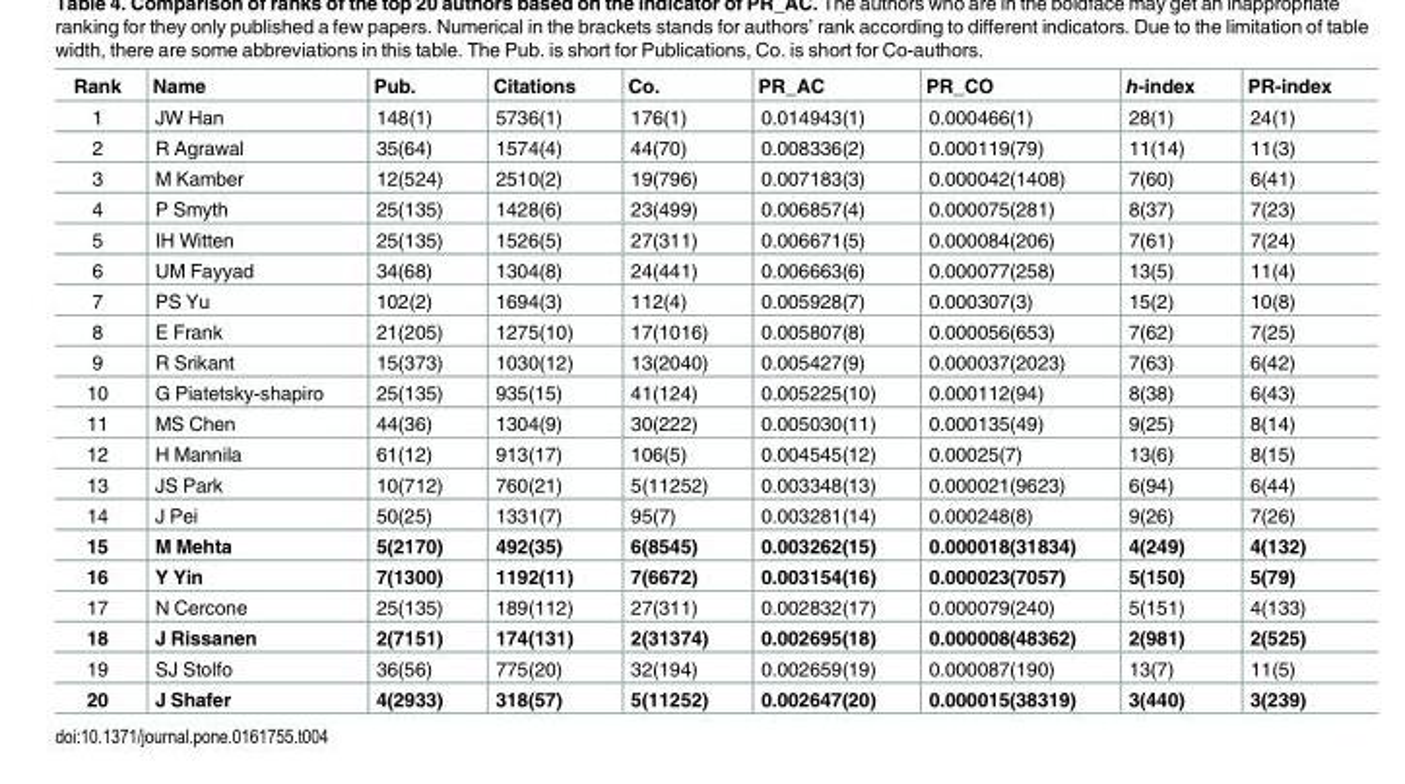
<table><thead><tr><td>Rank</td><td>Name</td><td>Pub.</td><td>Citations</td><td>Co.</td><td>PR_AC</td><td>PR_CO</td><td>h-index</td><td>PR-index</td></tr></thead><tbody><tr><td>1</td><td>JW Han</td><td>148(1)</td><td>5736(1)</td><td>176(1)</td><td>0.014943(1)</td><td>0.000466(1)</td><td>28(1)</td><td>24(1)</td></tr><tr><td>2</td><td>R Agrawal</td><td>35(64)</td><td>1574(4)</td><td>44(70)</td><td>0.008336(2)</td><td>0.000119(79)</td><td>11(14)</td><td>11(3)</td></tr><tr><td>3</td><td>M Kamber</td><td>12(524)</td><td>2510(2)</td><td>19(796)</td><td>0.007183(3)</td><td>0.000042(1408)</td><td>7(60)</td><td>6(41)</td></tr><tr><td>4</td><td>P Smyth</td><td>25(135)</td><td>1428(6)</td><td>23(499)</td><td>0.006857(4)</td><td>0.000075(281)</td><td>8(37)</td><td>7(23)</td></tr><tr><td>5</td><td>IH Witten</td><td>25(135)</td><td>1526(5)</td><td>27(311)</td><td>0.006671(5)</td><td>0.000084(206)</td><td>7(61)</td><td>7(24)</td></tr><tr><td>6</td><td>UM Fayyad</td><td>34(68)</td><td>1304(8)</td><td>24(441)</td><td>0.006663(6)</td><td>0.000077(258)</td><td>13(5)</td><td>11(4)</td></tr><tr><td>7</td><td>PS Yu</td><td>102(2)</td><td>1694(3)</td><td>112(4)</td><td>0.005928(7)</td><td>0.000307(3)</td><td>15(2)</td><td>10(8)</td></tr><tr><td>8</td><td>E Frank</td><td>21(205)</td><td>1275(10)</td><td>17(1016)</td><td>0.005807(8)</td><td>0.000056(653)</td><td>7(62)</td><td>7(25)</td></tr><tr><td>9</td><td>R Srikant</td><td>15(373)</td><td>1030(12)</td><td>13(2040)</td><td>0.005427(9)</td><td>0.000037(2023)</td><td>7(63)</td><td>6(42)</td></tr><tr><td>10</td><td>G Piatetsky-shapiro</td><td>25(135)</td><td>935(15)</td><td>41(124)</td><td>0.005225(10)</td><td>0.000112(94)</td><td>8(38)</td><td>6(43)</td></tr><tr><td>11</td><td>MS Chen</td><td>44(36)</td><td>1304(9)</td><td>30(222)</td><td>0.005030(11)</td><td>0.000135(49)</td><td>9(25)</td><td>8(14)</td></tr><tr><td>12</td><td>H Mannila</td><td>61(12)</td><td>913(17)</td><td>106(5)</td><td>0.004545(12)</td><td>0.00025(7)</td><td>13(6)</td><td>8(15)</td></tr><tr><td>13</td><td>JS Park</td><td>10(712)</td><td>760(21)</td><td>5(11252)</td><td>0.003348(13)</td><td>0.000021(9623)</td><td>6(94)</td><td>6(44)</td></tr><tr><td>14</td><td>J Pei</td><td>50(25)</td><td>1331(7)</td><td>95(7)</td><td>0.003281(14)</td><td>0.000248(8)</td><td>9(26)</td><td>7(26)</td></tr><tr><td>15</td><td>M Mehta</td><td>5(2170)</td><td>492(35)</td><td>6(8545)</td><td>0.003262(15)</td><td>0.000018(31834)</td><td>4(249)</td><td>4(132)</td></tr><tr><td>16</td><td>Y Yin</td><td>7(1300)</td><td>1192(11)</td><td>7(6672)</td><td>0.003154(16)</td><td>0.000023(7057)</td><td>5(150)</td><td>5(79)</td></tr><tr><td>17</td><td>N Cercone</td><td>25(135)</td><td>189(112)</td><td>27(311)</td><td>0.002832(17)</td><td>0.000079(240)</td><td>5(151)</td><td>4(133)</td></tr><tr><td>18</td><td>J Rissanen</td><td>2(7151)</td><td>174(131)</td><td>2(31374)</td><td>0.002695(18)</td><td>0.000008(48362)</td><td>2(981)</td><td>2(525)</td></tr><tr><td>19</td><td>SJ Stolfo</td><td>36(56)</td><td>775(20)</td><td>32(194)</td><td>0.002659(19)</td><td>0.000087(190)</td><td>13(7)</td><td>11(5)</td></tr><tr><td>20</td><td>J Shafer</td><td>4(2933)</td><td>318(57)</td><td>5(11252)</td><td>0.002647(20)</td><td>0.000015(38319)</td><td>3(440)</td><td>3(239)</td></tr></tbody></table>